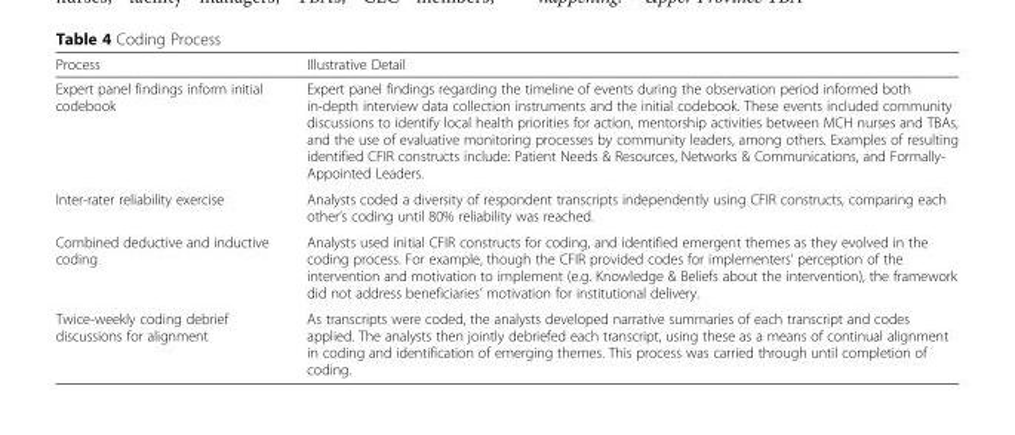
<table><thead><tr><td>Process</td><td>Illustrative Detail</td></tr></thead><tbody><tr><td>Expert panel findings inform initial codebook</td><td>Expert panel findings regarding the timeline of events during the observation period informed both in-depth interview data collection instruments and the initial codebook. These events included community discussions to identify local health priorities for action, mentorship activities between MCH nurses and TBAs, and the use of evaluative monitoring processes by community leaders, among others. Examples of resulting identified CFIR constructs include: Patient Needs &amp; Resources, Networks &amp; Communications, and Formally- Appointed Leaders.</td></tr><tr><td>Inter-rater reliability exercise</td><td>Analysts coded a diversity of respondent transcripts independently using CFIR constructs, comparing each other’s coding until 80% reliability was reached.</td></tr><tr><td>Combined deductive and inductive coding</td><td>Analysts used initial CFIR constructs for coding, and identified emergent themes as they evolved in the coding process. For example, though the CFIR provided codes for implementers’ perception of the intervention and motivation to implement (e.g. Knowledge &amp; Beliefs about the intervention), the framework did not address beneficiaries’ motivation for institutional delivery.</td></tr><tr><td>Twice-weekly coding debrief discussions for alignment</td><td>As transcripts were coded, the analysts developed narrative summaries of each transcript and codes applied. The analysts then jointly debriefed each transcript, using these as a means of continual alignment in coding and identification of emerging themes. This process was carried through until completion of coding.</td></tr></tbody></table>